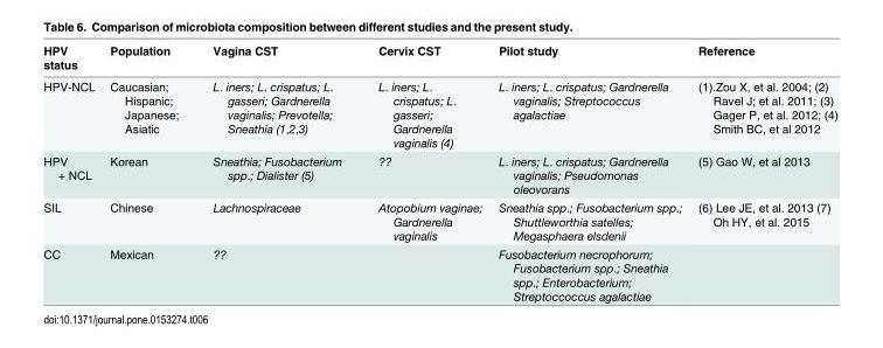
<table><thead><tr><td>HPV status</td><td>Population</td><td>Vagina CST</td><td>Cervix CST</td><td>Pilot study</td><td>Reference</td></tr></thead><tbody><tr><td>HPV-NCL</td><td>Caucasian; Hispanic; Japanese; Asiatic</td><td>L. iners; L. crispatus; L. gasseri; Gardnerella vaginalis; Prevotella; Sneathia (1,2,3)</td><td>L. iners; L. crispatus; L. gasseri; Gardnerella vaginalis (4)</td><td>L. iners; L. crispatus; Gardnerella vaginalis; Streptococcus agalactiae</td><td>(1).Zou X, et al. 2004; (2) Ravel J; et al. 2011; (3) Gager P, et al. 2012; (4) Smith BC, et al 2012</td></tr><tr><td>HPV + NCL</td><td>Korean</td><td>Sneathia; Fusobacterium spp.; Dialister (5)</td><td>??</td><td>L. iners; L. crispatus; Gardnerella vaginalis; Pseudomonas oleovorans</td><td>(5) Gao W, et al 2013</td></tr><tr><td>SIL</td><td>Chinese</td><td>Lachnospiraceae</td><td>Atopobium vaginae; Gardnerella vaginalis</td><td>Sneathia spp.; Fusobacterium spp.; Shuttleworthia satelles; Megasphaera elsdenii</td><td>(6) Lee JE, et al. 2013 (7) Oh HY, et al. 2015</td></tr><tr><td>CC</td><td>Mexican</td><td>??</td><td></td><td>Fusobacterium necrophorum; Fusobacterium spp.; Sneathia spp.; Enterobacterium; Streptoccoccus agalactiae</td><td></td></tr></tbody></table>